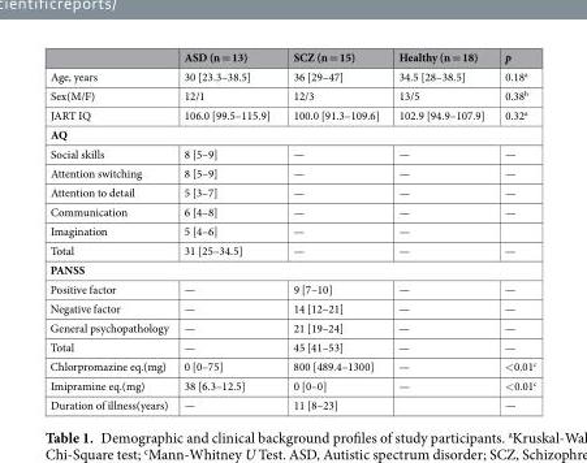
<table><thead><tr><td></td><td>ASD (n = 13)</td><td>SCZ (n = 15)</td><td>Healthy (n = 18)</td><td>p</td></tr></thead><tbody><tr><td>Age, years</td><td>30 [23.3–38.5]</td><td>36 [29–47]</td><td>34.5 [28–38.5]</td><td>0.18<sup>a</sup></td></tr><tr><td>Sex(M/F)</td><td>12/1</td><td>12/3</td><td>13/5</td><td>0.38<sup>b</sup></td></tr><tr><td>JART IQ</td><td>106.0 [99.5–115.9]</td><td>100.0 [91.3–109.6]</td><td>102.9 [94.9–107.9]</td><td>0.32<sup>a</sup></td></tr><tr><td colspan="5">AQ</td></tr><tr><td>Social skills</td><td>8 [5–9]</td><td>—</td><td>—</td><td>—</td></tr><tr><td>Attention switching</td><td>8 [5–9]</td><td>—</td><td>—</td><td>—</td></tr><tr><td>Attention to detail</td><td>5 [3–7]</td><td>—</td><td>—</td><td>—</td></tr><tr><td>Communication</td><td>6 [4–8]</td><td>—</td><td>—</td><td>—</td></tr><tr><td>Imagination</td><td>5 [4–6]</td><td>—</td><td>—</td><td></td></tr><tr><td>Total</td><td>31 [25–34.5]</td><td>—</td><td>—</td><td>—</td></tr><tr><td colspan="5">PANSS</td></tr><tr><td>Positive factor</td><td>—</td><td>9 [7–10]</td><td>—</td><td>—</td></tr><tr><td>Negative factor</td><td>—</td><td>14 [12–21]</td><td>—</td><td>—</td></tr><tr><td>General psychopathology</td><td>—</td><td>21 [19–24]</td><td>—</td><td>—</td></tr><tr><td>Total</td><td>—</td><td>45 [41–53]</td><td>—</td><td>—</td></tr><tr><td>Chlorpromazine eq.(mg)</td><td>0 [0–75]</td><td>800 [489.4–1300]</td><td>—</td><td>&lt;0.01<sup>c</sup></td></tr><tr><td>Imipramine eq.(mg)</td><td>38 [6.3–12.5]</td><td>0 [0–0]</td><td>—</td><td>&lt;0.01<sup>c</sup></td></tr><tr><td>Duration of illness(years)</td><td>—</td><td>11 [8–23]</td><td></td><td>—</td></tr></tbody></table>